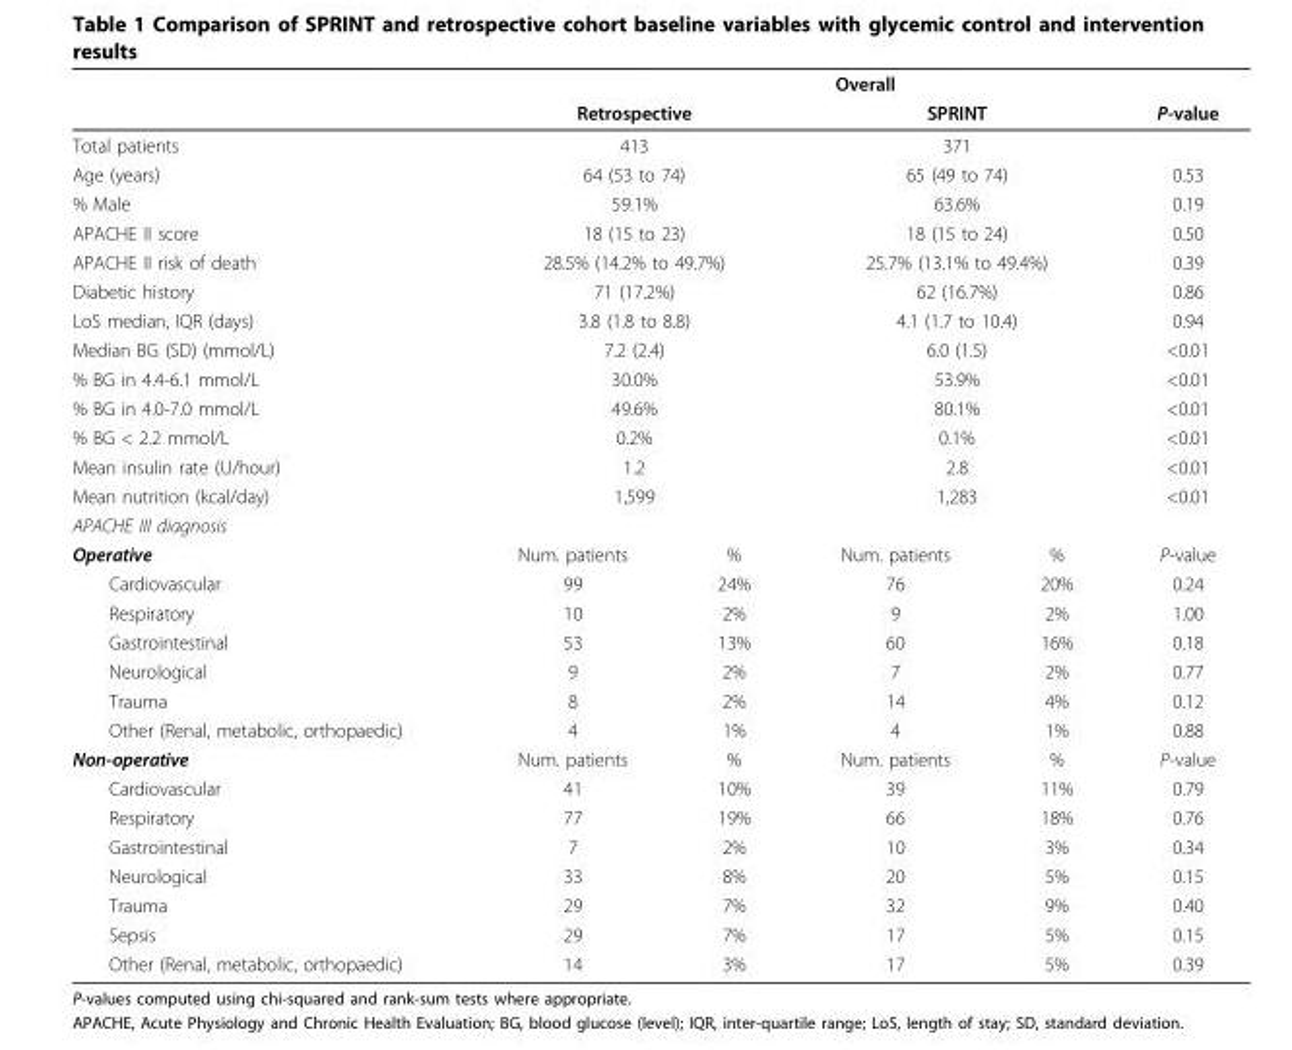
<table><thead><tr><td rowspan="2"></td><td colspan="5">Overall</td></tr><tr><td colspan="2">Retrospective</td><td colspan="2">SPRINT</td><td>P-value</td></tr></thead><tbody><tr><td>Total patients</td><td colspan="2">413</td><td colspan="2">371</td><td></td></tr><tr><td>Age (years)</td><td colspan="2">64 (53 to 74)</td><td colspan="2">65 (49 to 74)</td><td>0.53</td></tr><tr><td>% Male</td><td colspan="2">59.1%</td><td colspan="2">63.6%</td><td>0.19</td></tr><tr><td>APACHE II score</td><td colspan="2">18 (15 to 23)</td><td colspan="2">18 (15 to 24)</td><td>0.50</td></tr><tr><td>APACHE II risk of death</td><td colspan="2">28.5% (14.2% to 49.7%)</td><td colspan="2">25.7% (13.1% to 49.4%)</td><td>0.39</td></tr><tr><td>Diabetic history</td><td colspan="2">71 (17.2%)</td><td colspan="2">62 (16.7%)</td><td>0.86</td></tr><tr><td>LoS median, IQR (days)</td><td colspan="2">3.8 (1.8 to 8.8)</td><td colspan="2">4.1 (1.7 to 10.4)</td><td>0.94</td></tr><tr><td>Median BG (SD) (mmol/L)</td><td colspan="2">7.2 (2.4)</td><td colspan="2">6.0 (1.5)</td><td>&lt;0.01</td></tr><tr><td>% BG in 4.4-6.1 mmol/L</td><td colspan="2">30.0%</td><td colspan="2">53.9%</td><td>&lt;0.01</td></tr><tr><td>% BG in 4.0-7.0 mmol/L</td><td colspan="2">49.6%</td><td colspan="2">80.1%</td><td>&lt;0.01</td></tr><tr><td>% BG &lt; 2.2 mmol/L</td><td colspan="2">0.2%</td><td colspan="2">0.1%</td><td>&lt;0.01</td></tr><tr><td>Mean insulin rate (U/hour)</td><td colspan="2">1.2</td><td colspan="2">2.8</td><td>&lt;0.01</td></tr><tr><td>Mean nutrition (kcal/day)</td><td colspan="2">1,599</td><td colspan="2">1,283</td><td>&lt;0.01</td></tr><tr><td colspan="6">APACHE III diagnosis</td></tr><tr><td>Operative</td><td>Num. patients</td><td>%</td><td>Num. patients</td><td>%</td><td>P-value</td></tr><tr><td>Cardiovascular</td><td>99</td><td>24%</td><td>76</td><td>20%</td><td>0.24</td></tr><tr><td>Respiratory</td><td>10</td><td>2%</td><td>9</td><td>2%</td><td>1.00</td></tr><tr><td>Gastrointestinal</td><td>53</td><td>13%</td><td>60</td><td>16%</td><td>0.18</td></tr><tr><td>Neurological</td><td>9</td><td>2%</td><td>7</td><td>2%</td><td>0.77</td></tr><tr><td>Trauma</td><td>8</td><td>2%</td><td>14</td><td>4%</td><td>0.12</td></tr><tr><td>Other (Renal, metabolic, orthopaedic)</td><td>4</td><td>1%</td><td>4</td><td>1%</td><td>0.88</td></tr><tr><td>Non-operative</td><td>Num. patients</td><td>%</td><td>Num. patients</td><td>%</td><td>P-value</td></tr><tr><td>Cardiovascular</td><td>41</td><td>10%</td><td>39</td><td>11%</td><td>0.79</td></tr><tr><td>Respiratory</td><td>77</td><td>19%</td><td>66</td><td>18%</td><td>0.76</td></tr><tr><td>Gastrointestinal</td><td>7</td><td>2%</td><td>10</td><td>3%</td><td>0.34</td></tr><tr><td>Neurological</td><td>33</td><td>8%</td><td>20</td><td>5%</td><td>0.15</td></tr><tr><td>Trauma</td><td>29</td><td>7%</td><td>32</td><td>9%</td><td>0.40</td></tr><tr><td>Sepsis</td><td>29</td><td>7%</td><td>17</td><td>5%</td><td>0.15</td></tr><tr><td>Other (Renal, metabolic, orthopaedic)</td><td>14</td><td>3%</td><td>17</td><td>5%</td><td>0.39</td></tr></tbody></table>